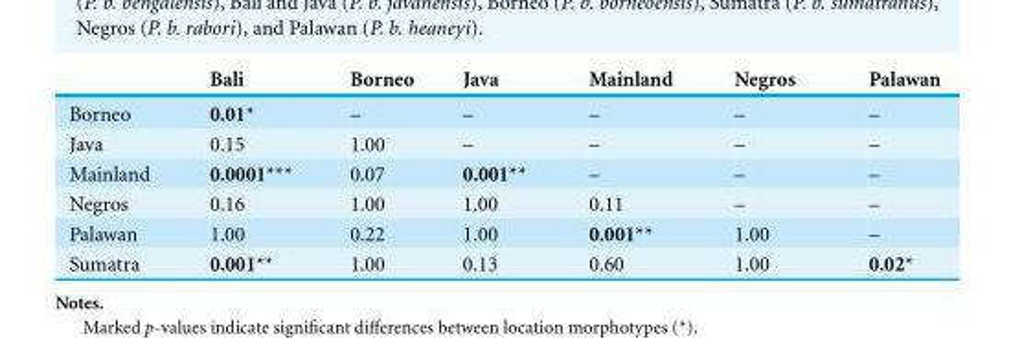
<table><thead><tr><td></td><td>Bali</td><td>Borneo</td><td>Java</td><td>Mainland</td><td>Negros</td><td>Palawan</td></tr></thead><tbody><tr><td>Borneo</td><td>0.01*</td><td>–</td><td>–</td><td>–</td><td>–</td><td>–</td></tr><tr><td>Java</td><td>0.15</td><td>1.00</td><td>–</td><td>–</td><td>–</td><td>–</td></tr><tr><td>Mainland</td><td>0.0001***</td><td>0.07</td><td>0.001**</td><td>–</td><td>–</td><td>–</td></tr><tr><td>Negros</td><td>0.16</td><td>1.00</td><td>1.00</td><td>0.11</td><td>–</td><td>–</td></tr><tr><td>Palawan</td><td>1.00</td><td>0.22</td><td>1.00</td><td>0.001**</td><td>1.00</td><td>–</td></tr><tr><td>Sumatra</td><td>0.001**</td><td>1.00</td><td>0.13</td><td>0.60</td><td>1.00</td><td>0.02*</td></tr></tbody></table>